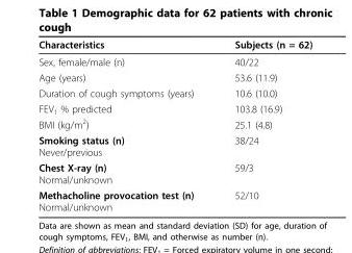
<table><thead><tr><td>Characteristics</td><td>Subjects (n = 62)</td></tr></thead><tbody><tr><td>Sex, female/male (n)</td><td>40/22</td></tr><tr><td>Age (years)</td><td>53.6 (11.9)</td></tr><tr><td>Duration of cough symptoms (years)</td><td>10.6 (10.0)</td></tr><tr><td>FEV<sub>1</sub> % predicted</td><td>103.8 (16.9)</td></tr><tr><td>BMI (kg/m<sup>2</sup>)</td><td>25.1 (4.8)</td></tr><tr><td>Smoking status (n) Never/previous</td><td>38/24</td></tr><tr><td>Chest X-ray (n) Normal/unknown</td><td>59/3</td></tr><tr><td>Methacholine provocation test (n) Normal/unknown</td><td>52/10</td></tr></tbody></table>